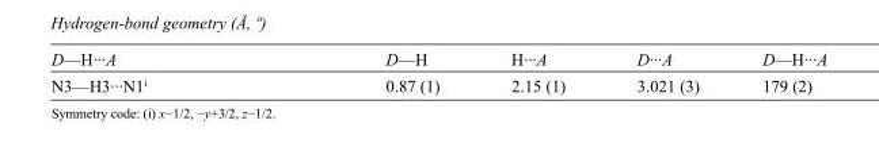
<table><tbody><tr><td>D—H···A</td><td>D—H</td><td>H···A</td><td>D···A</td><td>D—H···A</td></tr><tr><td>N3—H3···N1<sup>i</sup></td><td>0.87 (1)</td><td>2.15 (1)</td><td>3.021 (3)</td><td>179 (2)</td></tr></tbody></table>